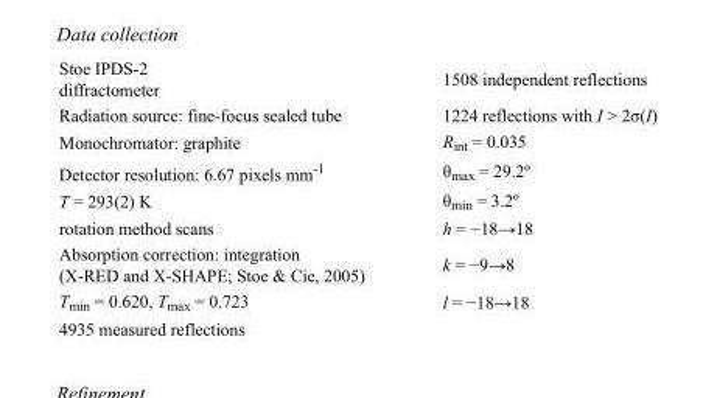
<table><tbody><tr><td>Stoe IPDS-2 diffractometer</td><td>1508 independent reflections</td></tr><tr><td>Radiation source: fine-focus sealed tube</td><td>1224 reflections with I &gt; 2σ(I)</td></tr><tr><td>Monochromator: graphite</td><td>R<sub>int</sub> = 0.035</td></tr><tr><td>Detector resolution: 6.67 pixels mm<sup>-1</sup></td><td>θ<sub>max</sub> = 29.2º</td></tr><tr><td>T = 293(2) K</td><td>θ<sub>min</sub> = 3.2º</td></tr><tr><td>rotation method scans</td><td>h = −18→18</td></tr><tr><td>Absorption correction: integration (X-RED and X-SHAPE; Stoe &amp; Cie, 2005)</td><td>k = −9→8</td></tr><tr><td>T<sub>min</sub> = 0.620, T<sub>max</sub> = 0.723</td><td>l = −18→18</td></tr><tr><td>4935 measured reflections</td><td></td></tr></tbody></table>